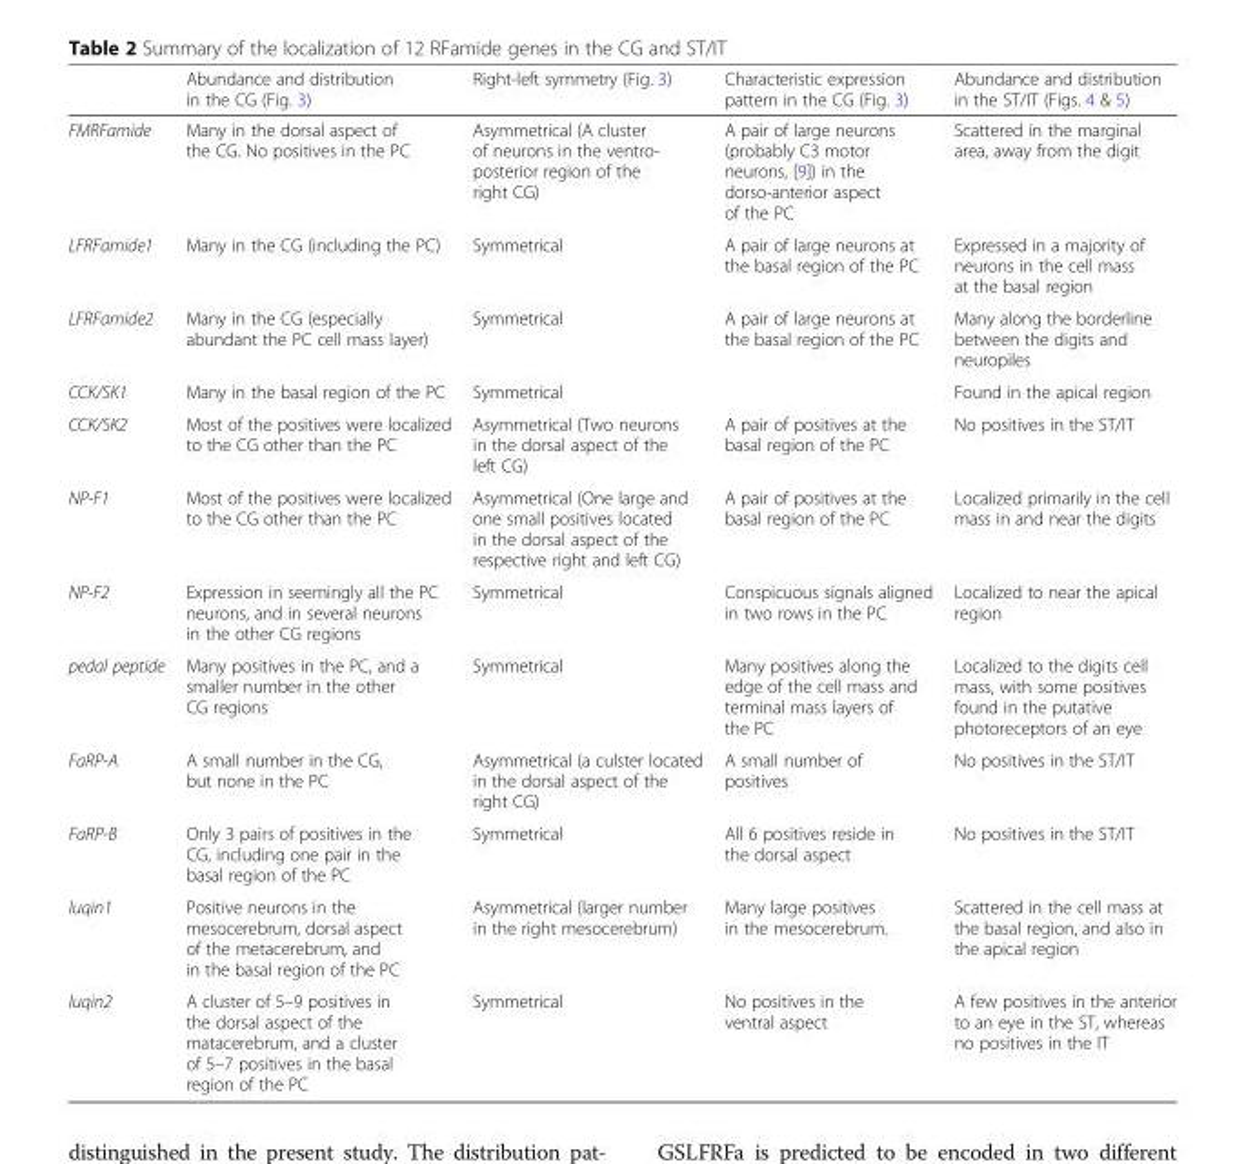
<table><thead><tr><td></td><td>Abundance and distribution in the CG (Fig. 3)</td><td>Right-left symmetry (Fig. 3)</td><td>Characteristic expression pattern in the CG (Fig. 3)</td><td>Abundance and distribution in the ST/IT (Figs. 4 &amp; 5)</td></tr></thead><tbody><tr><td>FMRFamide</td><td>Many in the dorsal aspect of the CG. No positives in the PC</td><td>Asymmetrical (A cluster of neurons in the ventro- posterior region of the right CG)</td><td>A pair of large neurons (probably C3 motor neurons, [9]) in the dorso-anterior aspect of the PC</td><td>Scattered in the marginal area, away from the digit</td></tr><tr><td>LFRFamide1</td><td>Many in the CG (including the PC)</td><td>Symmetrical</td><td>A pair of large neurons at the basal region of the PC</td><td>Expressed in a majority of neurons in the cell mass at the basal region</td></tr><tr><td>LFRFamide2</td><td>Many in the CG (especially abundant the PC cell mass layer)</td><td>Symmetrical</td><td>A pair of large neurons at the basal region of the PC</td><td>Many along the borderline between the digits and neuropiles</td></tr><tr><td>CCK/SK1</td><td>Many in the basal region of the PC</td><td>Symmetrical</td><td></td><td>Found in the apical region</td></tr><tr><td>CCK/SK2</td><td>Most of the positives were localized to the CG other than the PC</td><td>Asymmetrical (Two neurons in the dorsal aspect of the left CG)</td><td>A pair of positives at the basal region of the PC</td><td>No positives in the ST/IT</td></tr><tr><td>NP-F1</td><td>Most of the positives were localized to the CG other than the PC</td><td>Asymmetrical (One large and one small positives located in the dorsal aspect of the respective right and left CG)</td><td>A pair of positives at the basal region of the PC</td><td>Localized primarily in the cell mass in and near the digits</td></tr><tr><td>NP-F2</td><td>Expression in seemingly all the PC neurons, and in several neurons in the other CG regions</td><td>Symmetrical</td><td>Conspicuous signals aligned in two rows in the PC</td><td>Localized to near the apical region</td></tr><tr><td>pedal peptide</td><td>Many positives in the PC, and a smaller number in the other CG regions</td><td>Symmetrical</td><td>Many positives along the edge of the cell mass and terminal mass layers of the PC</td><td>Localized to the digits cell mass, with some positives found in the putative photoreceptors of an eye</td></tr><tr><td>FaRP-A</td><td>A small number in the CG, but none in the PC</td><td>Asymmetrical (a culster located in the dorsal aspect of the right CG)</td><td>A small number of positives</td><td>No positives in the ST/IT</td></tr><tr><td>FaRP-B</td><td>Only 3 pairs of positives in the CG, including one pair in the basal region of the PC</td><td>Symmetrical</td><td>All 6 positives reside in the dorsal aspect</td><td>No positives in the ST/IT</td></tr><tr><td>luqin1</td><td>Positive neurons in the mesocerebrum, dorsal aspect of the metacerebrum, and in the basal region of the PC</td><td>Asymmetrical (larger number in the right mesocerebrum)</td><td>Many large positives in the mesocerebrum.</td><td>Scattered in the cell mass at the basal region, and also in the apical region</td></tr><tr><td>luqin2</td><td>A cluster of 5–9 positives in the dorsal aspect of the matacerebrum, and a cluster of 5–7 positives in the basal region of the PC</td><td>Symmetrical</td><td>No positives in the ventral aspect</td><td>A few positives in the anterior to an eye in the ST, whereas no positives in the IT</td></tr></tbody></table>